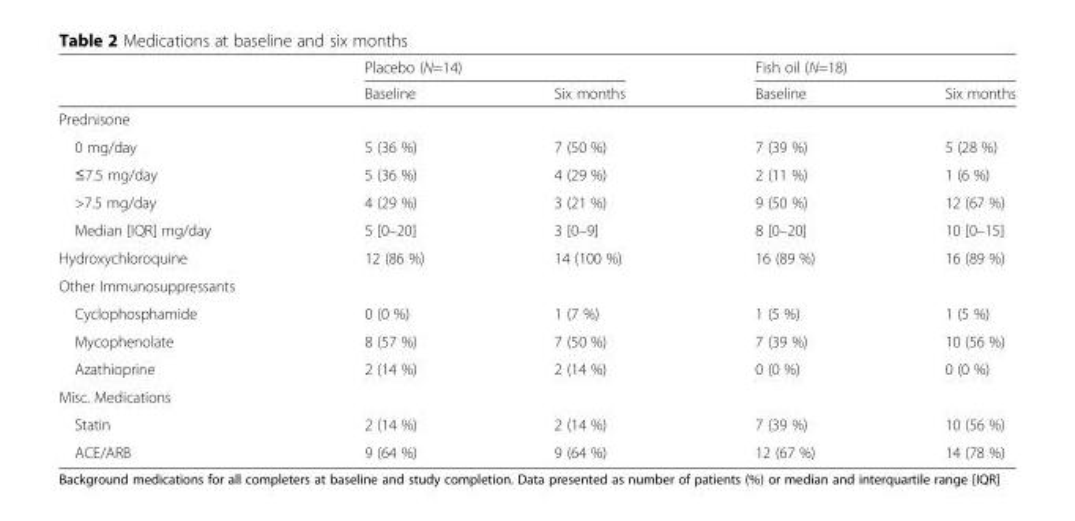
<table><thead><tr><td rowspan="2"></td><td colspan="2">Placebo (N=14)</td><td colspan="2">Fish oil (N=18)</td></tr><tr><td>Baseline</td><td>Six months</td><td>Baseline</td><td>Six months</td></tr></thead><tbody><tr><td colspan="5">Prednisone</td></tr><tr><td>0 mg/day</td><td>5 (36 %)</td><td>7 (50 %)</td><td>7 (39 %)</td><td>5 (28 %)</td></tr><tr><td>≤7.5 mg/day</td><td>5 (36 %)</td><td>4 (29 %)</td><td>2 (11 %)</td><td>1 (6 %)</td></tr><tr><td>&gt;7.5 mg/day</td><td>4 (29 %)</td><td>3 (21 %)</td><td>9 (50 %)</td><td>12 (67 %)</td></tr><tr><td>Median [IQR] mg/day</td><td>5 [0–20]</td><td>3 [0–9]</td><td>8 [0–20]</td><td>10 [0–15]</td></tr><tr><td>Hydroxychloroquine</td><td>12 (86 %)</td><td>14 (100 %)</td><td>16 (89 %)</td><td>16 (89 %)</td></tr><tr><td colspan="5">Other Immunosuppressants</td></tr><tr><td>Cyclophosphamide</td><td>0 (0 %)</td><td>1 (7 %)</td><td>1 (5 %)</td><td>1 (5 %)</td></tr><tr><td>Mycophenolate</td><td>8 (57 %)</td><td>7 (50 %)</td><td>7 (39 %)</td><td>10 (56 %)</td></tr><tr><td>Azathioprine</td><td>2 (14 %)</td><td>2 (14 %)</td><td>0 (0 %)</td><td>0 (0 %)</td></tr><tr><td colspan="5">Misc. Medications</td></tr><tr><td>Statin</td><td>2 (14 %)</td><td>2 (14 %)</td><td>7 (39 %)</td><td>10 (56 %)</td></tr><tr><td>ACE/ARB</td><td>9 (64 %)</td><td>9 (64 %)</td><td>12 (67 %)</td><td>14 (78 %)</td></tr></tbody></table>